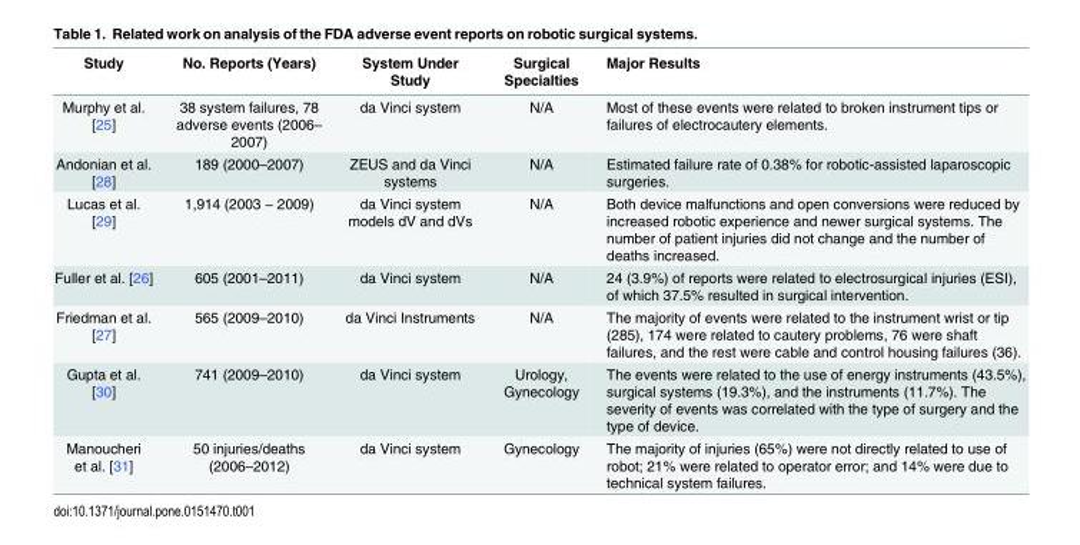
<table><thead><tr><td>Study</td><td>No. Reports (Years)</td><td>System Under Study</td><td>Surgical Specialties</td><td>Major Results</td></tr></thead><tbody><tr><td>Murphy et al. [25]</td><td>38 system failures, 78 adverse events (2006– 2007)</td><td>da Vinci system</td><td>N/A</td><td>Most of these events were related to broken instrument tips or failures of electrocautery elements.</td></tr><tr><td>Andonian et al. [28]</td><td>189 (2000–2007)</td><td>ZEUS and da Vinci systems</td><td>N/A</td><td>Estimated failure rate of 0.38% for robotic-assisted laparoscopic surgeries.</td></tr><tr><td>Lucas et al. [29]</td><td>1,914 (2003 − 2009)</td><td>da Vinci system models dV and dVs</td><td>N/A</td><td>Both device malfunctions and open conversions were reduced by increased robotic experience and newer surgical systems. The number of patient injuries did not change and the number of deaths increased.</td></tr><tr><td>Fuller et al. [26]</td><td>605 (2001–2011)</td><td>da Vinci system</td><td>N/A</td><td>24 (3.9%) of reports were related to electrosurgical injuries (ESI), of which 37.5% resulted in surgical intervention.</td></tr><tr><td>Friedman et al. [27]</td><td>565 (2009–2010)</td><td>da Vinci Instruments</td><td>N/A</td><td>The majority of events were related to the instrument wrist or tip (285), 174 were related to cautery problems, 76 were shaft failures, and the rest were cable and control housing failures (36).</td></tr><tr><td>Gupta et al. [30]</td><td>741 (2009–2010)</td><td>da Vinci system</td><td>Urology, Gynecology</td><td>The events were related to the use of energy instruments (43.5%), surgical systems (19.3%), and the instruments (11.7%). The severity of events was correlated with the type of surgery and the type of device.</td></tr><tr><td>Manoucheri et al. [31]</td><td>50 injuries/deaths (2006–2012)</td><td>da Vinci system</td><td>Gynecology</td><td>The majority of injuries (65%) were not directly related to use of robot; 21% were related to operator error; and 14% were due to technical system failures.</td></tr></tbody></table>